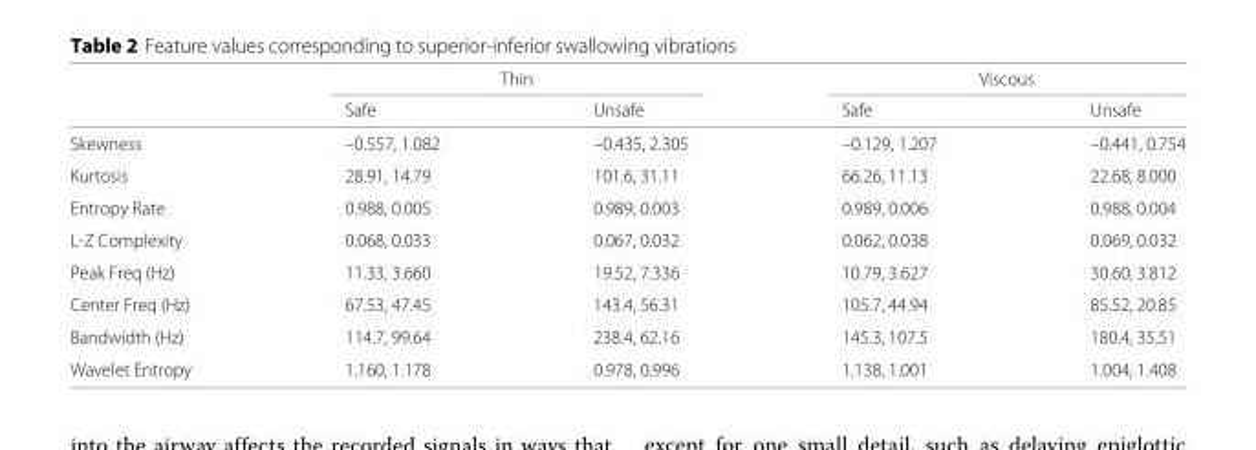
<table><thead><tr><td rowspan="2"></td><td colspan="2">Thin</td><td colspan="2">Viscous</td></tr><tr><td>Safe</td><td>Unsafe</td><td>Safe</td><td>Unsafe</td></tr></thead><tbody><tr><td>Skewness</td><td>–0.557, 1.082</td><td>–0.435, 2.305</td><td>–0.129, 1.207</td><td>–0.441, 0.754</td></tr><tr><td>Kurtosis</td><td>28.91, 14.79</td><td>101.6, 31.11</td><td>66.26, 11.13</td><td>22.68, 8.000</td></tr><tr><td>Entropy Rate</td><td>0.988, 0.005</td><td>0.989, 0.003</td><td>0.989, 0.006</td><td>0.988, 0.004</td></tr><tr><td>L-Z Complexity</td><td>0.068, 0.033</td><td>0.067, 0.032</td><td>0.062, 0.038</td><td>0.069, 0.032</td></tr><tr><td>Peak Freq (Hz)</td><td>11.33, 3.660</td><td>19.52, 7.336</td><td>10.79, 3.627</td><td>30.60, 3.812</td></tr><tr><td>Center Freq (Hz)</td><td>67.53, 47.45</td><td>143.4, 56.31</td><td>105.7, 44.94</td><td>85.52, 20.85</td></tr><tr><td>Bandwidth (Hz)</td><td>114.7, 99.64</td><td>238.4, 62.16</td><td>145.3, 107.5</td><td>180.4, 35.51</td></tr><tr><td>Wavelet Entropy</td><td>1.160, 1.178</td><td>0.978, 0.996</td><td>1.138, 1.001</td><td>1.004, 1.408</td></tr></tbody></table>